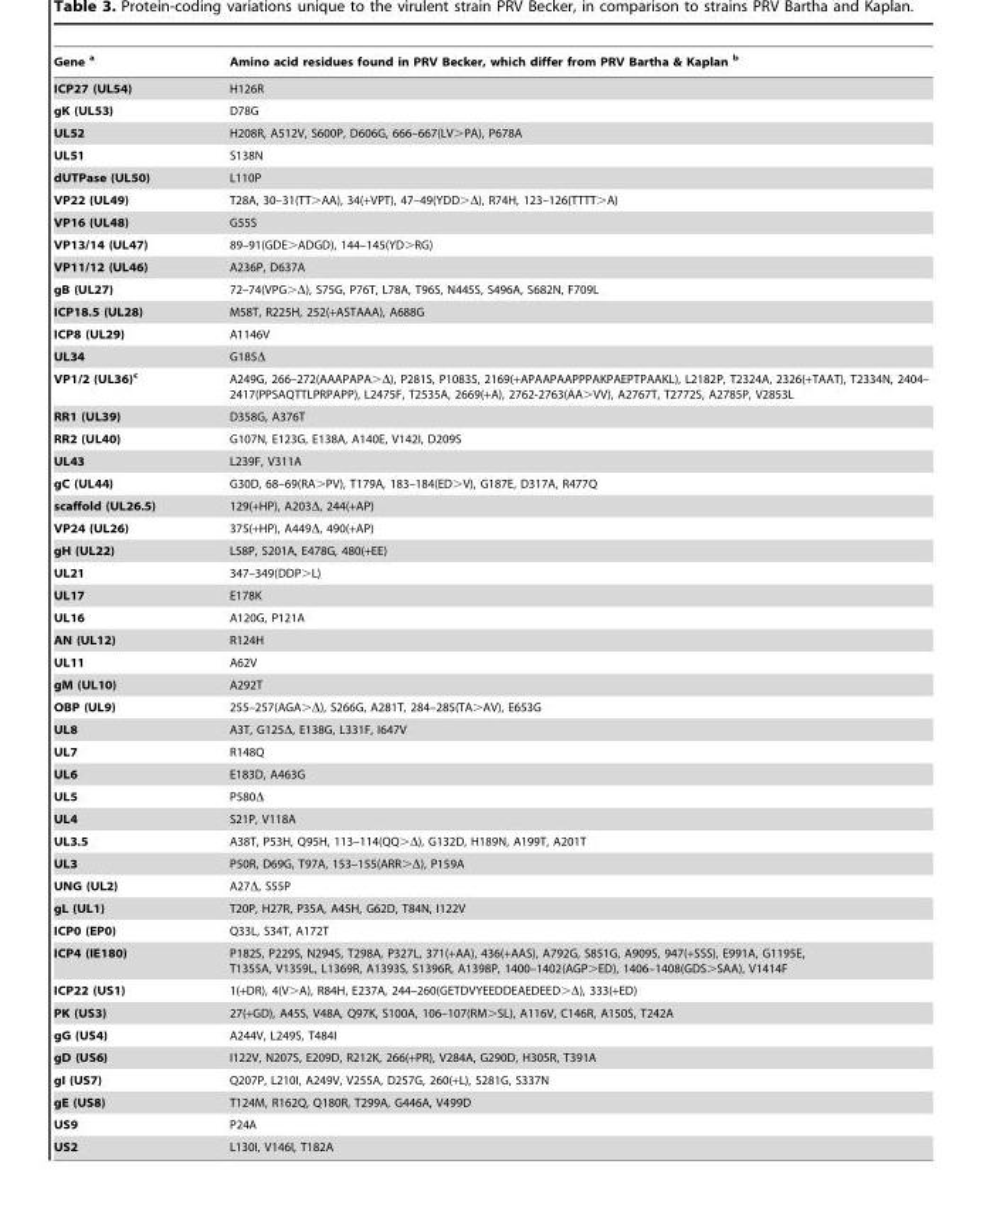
<table><thead><tr><td>Gene a</td><td>Amino acid residues found in PRV Becker, which differ from PRV Bartha &amp; Kaplan b</td></tr></thead><tbody><tr><td>ICP27 (UL54)</td><td>H126R</td></tr><tr><td>gK (UL53)</td><td>D78G</td></tr><tr><td>UL52</td><td>H208R, A512V, S600P, D606G, 666–667(LV&gt;PA), P678A</td></tr><tr><td>UL51</td><td>S138N</td></tr><tr><td>dUTPase (UL50)</td><td>L110P</td></tr><tr><td>VP22 (UL49)</td><td>T28A, 30–31(TT&gt;AA), 34(+VPT), 47–49(YDD&gt;Δ), R74H, 123–126(TTTT&gt;A)</td></tr><tr><td>VP16 (UL48)</td><td>G55S</td></tr><tr><td>VP13/14 (UL47)</td><td>89–91(GDE&gt;ADGD), 144–145(YD&gt;RG)</td></tr><tr><td>VP11/12 (UL46)</td><td>A236P, D637A</td></tr><tr><td>gB (UL27)</td><td>72–74(VPG&gt;Δ), S75G, P76T, L78A, T96S, N445S, S496A, S682N, F709L</td></tr><tr><td>ICP18.5 (UL28)</td><td>M58T, R225H, 252(+ASTAAA), A688G</td></tr><tr><td>ICP8 (UL29)</td><td>A1146V</td></tr><tr><td>UL34</td><td>G185Δ</td></tr><tr><td>VP1/2 (UL36)<sup>c</sup></td><td>A249G, 266–272(AAAPAPA&gt;Δ), P281S, P1083S, 2169(+APAAPAAPPPAKPAEPTPAAKL), L2182P, T2324A, 2326(+TAAT), T2334N, 2404– 2417(PPSAQTTLPRPAPP), L2475F, T2535A, 2669(+A), 2762-2763(AA&gt;VV), A2767T, T2772S, A2785P, V2853L</td></tr><tr><td>RR1 (UL39)</td><td>D358G, A376T</td></tr><tr><td>RR2 (UL40)</td><td>G107N, E123G, E138A, A140E, V142I, D209S</td></tr><tr><td>UL43</td><td>L239F, V311A</td></tr><tr><td>gC (UL44)</td><td>G30D, 68–69(RA&gt;PV), T179A, 183–184(ED&gt;V), G187E, D317A, R477Q</td></tr><tr><td>scaffold (UL26.5)</td><td>129(+HP), A203Δ, 244(+AP)</td></tr><tr><td>VP24 (UL26)</td><td>375(+HP), A449Δ, 490(+AP)</td></tr><tr><td>gH (UL22)</td><td>L58P, S201A, E478G, 480(+EE)</td></tr><tr><td>UL21</td><td>347–349(DDP&gt;L)</td></tr><tr><td>UL17</td><td>E178K</td></tr><tr><td>UL16</td><td>A120G, P121A</td></tr><tr><td>AN (UL12)</td><td>R124H</td></tr><tr><td>UL11</td><td>A62V</td></tr><tr><td>gM (UL10)</td><td>A292T</td></tr><tr><td>OBP (UL9)</td><td>255–257(AGA&gt;Δ), S266G, A281T, 284–285(TA&gt;AV), E653G</td></tr><tr><td>UL8</td><td>A3T, G125Δ, E138G, L331F, I647V</td></tr><tr><td>UL7</td><td>R148Q</td></tr><tr><td>UL6</td><td>E183D, A463G</td></tr><tr><td>UL5</td><td>P580Δ</td></tr><tr><td>UL4</td><td>S21P, V118A</td></tr><tr><td>UL3.5</td><td>A38T, P53H, Q95H, 113–114(QQ&gt;Δ), G132D, H189N, A199T, A201T</td></tr><tr><td>UL3</td><td>P50R, D69G, T97A, 153–155(ARR&gt;Δ), P159A</td></tr><tr><td>UNG (UL2)</td><td>A27Δ, S55P</td></tr><tr><td>gL (UL1)</td><td>T20P, H27R, P35A, A45H, G62D, T84N, I122V</td></tr><tr><td>ICP0 (EP0)</td><td>Q33L, S34T, A172T</td></tr><tr><td>ICP4 (IE180)</td><td>P182S, P229S, N294S, T298A, P327L, 371(+AA), 436(+AAS), A792G, S851G, A909S, 947(+SSS), E991A, G1195E, T1355A, V1359L, L1369R, A1393S, S1396R, A1398P, 1400–1402(AGP&gt;ED), 1406–1408(GDS&gt;SAA), V1414F</td></tr><tr><td>ICP22 (US1)</td><td>1(+DR), 4(V&gt;A), R84H, E237A, 244–260(GETDVYEEDDEAEDEED&gt;Δ), 333(+ED)</td></tr><tr><td>PK (US3)</td><td>27(+GD), A45S, V48A, Q97K, S100A, 106–107(RM&gt;SL), A116V, C146R, A150S, T242A</td></tr><tr><td>gG (US4)</td><td>A244V, L249S, T484I</td></tr><tr><td>gD (US6)</td><td>I122V, N207S, E209D, R212K, 266(+PR), V284A, G290D, H305R, T391A</td></tr><tr><td>gI (US7)</td><td>Q207P, L210I, A249V, V255A, D257G, 260(+L), S281G, S337N</td></tr><tr><td>gE (US8)</td><td>T124M, R162Q, Q180R, T299A, G446A, V499D</td></tr><tr><td>US9</td><td>P24A</td></tr><tr><td>US2</td><td>L130I, V146I, T182A</td></tr></tbody></table>